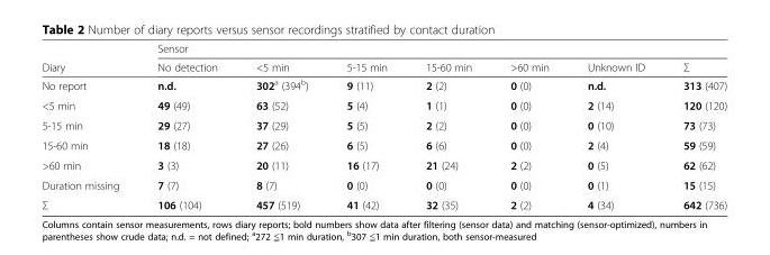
<table><thead><tr><td rowspan="2">Diary</td><td colspan="7">Sensor</td></tr><tr><td>No detection</td><td>&lt;5 min</td><td>5-15 min</td><td>15-60 min</td><td>&gt;60 min</td><td>Unknown ID</td><td>Σ</td></tr></thead><tbody><tr><td>No report</td><td>n.d.</td><td>302<sup>a</sup> (394<sup>b</sup>)</td><td>9 (11)</td><td>2 (2)</td><td>0 (0)</td><td>n.d.</td><td>313 (407)</td></tr><tr><td>&lt;5 min</td><td>49 (49)</td><td>63 (52)</td><td>5 (4)</td><td>1 (1)</td><td>0 (0)</td><td>2 (14)</td><td>120 (120)</td></tr><tr><td>5-15 min</td><td>29 (27)</td><td>37 (29)</td><td>5 (5)</td><td>2 (2)</td><td>0 (0)</td><td>0 (10)</td><td>73 (73)</td></tr><tr><td>15-60 min</td><td>18 (18)</td><td>27 (26)</td><td>6 (5)</td><td>6 (6)</td><td>0 (0)</td><td>2 (4)</td><td>59 (59)</td></tr><tr><td>&gt;60 min</td><td>3 (3)</td><td>20 (11)</td><td>16 (17)</td><td>21 (24)</td><td>2 (2)</td><td>0 (5)</td><td>62 (62)</td></tr><tr><td>Duration missing</td><td>7 (7)</td><td>8 (7)</td><td>0 (0)</td><td>0 (0)</td><td>0 (0)</td><td>0 (1)</td><td>15 (15)</td></tr><tr><td>Σ</td><td>106 (104)</td><td>457 (519)</td><td>41 (42)</td><td>32 (35)</td><td>2 (2)</td><td>4 (34)</td><td>642 (736)</td></tr></tbody></table>